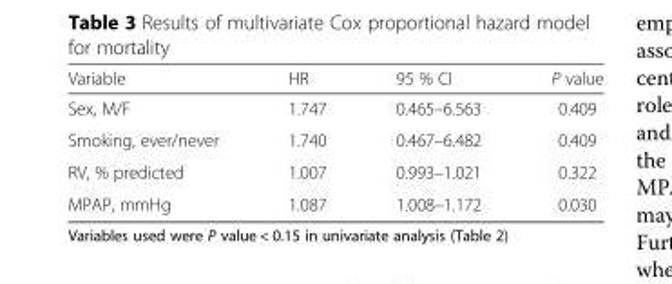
<table><thead><tr><td>Variable</td><td>HR</td><td>95 % CI</td><td>P value</td></tr></thead><tbody><tr><td>Sex, M/F</td><td>1.747</td><td>0.465–6.563</td><td>0.409</td></tr><tr><td>Smoking, ever/never</td><td>1.740</td><td>0.467–6.482</td><td>0.409</td></tr><tr><td>RV, % predicted</td><td>1.007</td><td>0.993–1.021</td><td>0.322</td></tr><tr><td>MPAP, mmHg</td><td>1.087</td><td>1.008–1.172</td><td>0.030</td></tr></tbody></table>